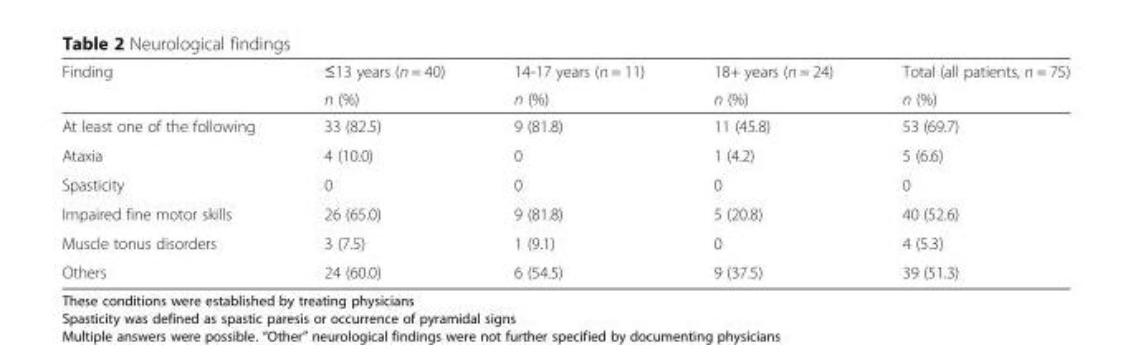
<table><thead><tr><td rowspan="2">Finding</td><td rowspan="2">≤13 years (n = 40) n (%)</td><td rowspan="2">14-17 years (n = 11) n (%)</td><td rowspan="2">18+ years (n = 24) n (%)</td><td rowspan="2">Total (all patients, n = 75) n (%)</td></tr><tr></tr></thead><tbody><tr><td>At least one of the following</td><td>33 (82.5)</td><td>9 (81.8)</td><td>11 (45.8)</td><td>53 (69.7)</td></tr><tr><td>Ataxia</td><td>4 (10.0)</td><td>0</td><td>1 (4.2)</td><td>5 (6.6)</td></tr><tr><td>Spasticity</td><td>0</td><td>0</td><td>0</td><td>0</td></tr><tr><td>Impaired fine motor skills</td><td>26 (65.0)</td><td>9 (81.8)</td><td>5 (20.8)</td><td>40 (52.6)</td></tr><tr><td>Muscle tonus disorders</td><td>3 (7.5)</td><td>1 (9.1)</td><td>0</td><td>4 (5.3)</td></tr><tr><td>Others</td><td>24 (60.0)</td><td>6 (54.5)</td><td>9 (37.5)</td><td>39 (51.3)</td></tr></tbody></table>